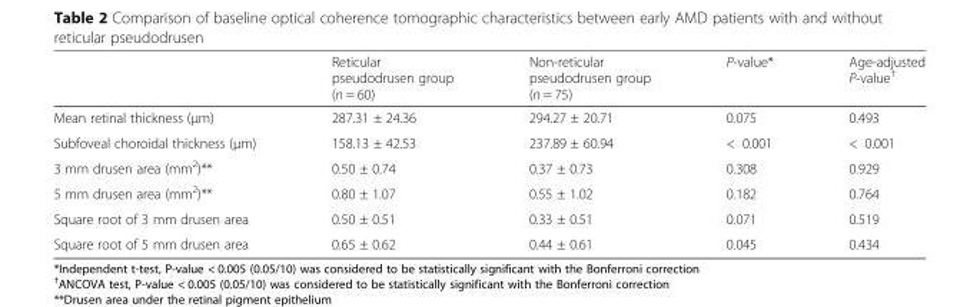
<table><thead><tr><td></td><td>Reticular pseudodrusen group (n = 60)</td><td>Non-reticular pseudodrusen group (n = 75)</td><td>P-value*</td><td>Age-adjusted P-value<sup>†</sup></td></tr></thead><tbody><tr><td>Mean retinal thickness (μm)</td><td>287.31 ± 24.36</td><td>294.27 ± 20.71</td><td>0.075</td><td>0.493</td></tr><tr><td>Subfoveal choroidal thickness (μm)</td><td>158.13 ± 42.53</td><td>237.89 ± 60.94</td><td>&lt; 0.001</td><td>&lt; 0.001</td></tr><tr><td>3 mm drusen area (mm<sup>2</sup>)**</td><td>0.50 ± 0.74</td><td>0.37 ± 0.73</td><td>0.308</td><td>0.929</td></tr><tr><td>5 mm drusen area (mm<sup>2</sup>)**</td><td>0.80 ± 1.07</td><td>0.55 ± 1.02</td><td>0.182</td><td>0.764</td></tr><tr><td>Square root of 3 mm drusen area</td><td>0.50 ± 0.51</td><td>0.33 ± 0.51</td><td>0.071</td><td>0.519</td></tr><tr><td>Square root of 5 mm drusen area</td><td>0.65 ± 0.62</td><td>0.44 ± 0.61</td><td>0.045</td><td>0.434</td></tr></tbody></table>